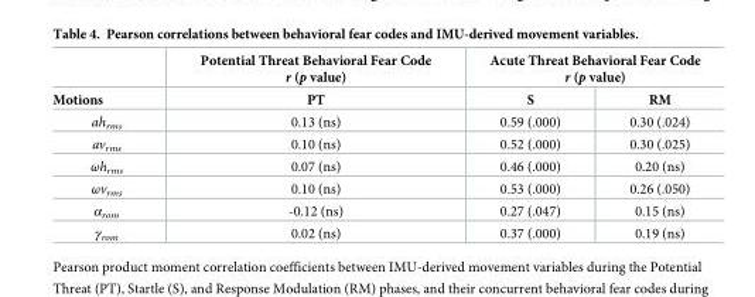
<table><thead><tr><td rowspan="2">Motions</td><td rowspan="2">Potential Threat Behavioral Fear Code r (p value) PT</td><td colspan="2">Acute Threat Behavioral Fear Code r (p value)</td></tr><tr><td>S</td><td>RM</td></tr></thead><tbody><tr><td>ah<sub>rms</sub></td><td>0.13 (ns)</td><td>0.59 (.000)</td><td>0.30 (.024)</td></tr><tr><td>av<sub>rms</sub></td><td>0.10 (ns)</td><td>0.52 (.000)</td><td>0.30 (.025)</td></tr><tr><td>ωh<sub>rms</sub></td><td>0.07 (ns)</td><td>0.46 (.000)</td><td>0.20 (ns)</td></tr><tr><td>ωv<sub>rms</sub></td><td>0.10 (ns)</td><td>0.53 (.000)</td><td>0.26 (.050)</td></tr><tr><td>α<sub>rom</sub></td><td>-0.12 (ns)</td><td>0.27 (.047)</td><td>0.15 (ns)</td></tr><tr><td>γ<sub>rom</sub></td><td>0.02 (ns)</td><td>0.37 (.000)</td><td>0.19 (ns)</td></tr></tbody></table>